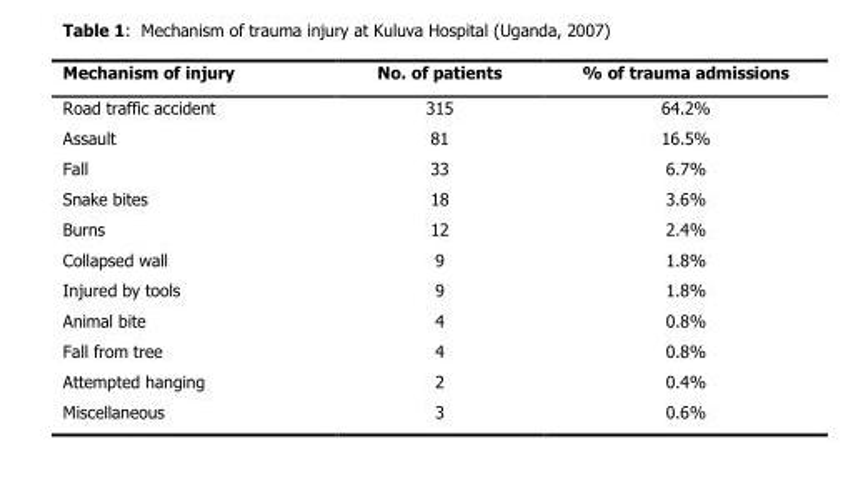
<table><thead><tr><td>Mechanism of injury</td><td>No. of patients</td><td>% of trauma admissions</td></tr></thead><tbody><tr><td>Road traffic accident</td><td>315</td><td>64.2%</td></tr><tr><td>Assault</td><td>81</td><td>16.5%</td></tr><tr><td>Fall</td><td>33</td><td>6.7%</td></tr><tr><td>Snake bites</td><td>18</td><td>3.6%</td></tr><tr><td>Burns</td><td>12</td><td>2.4%</td></tr><tr><td>Collapsed wall</td><td>9</td><td>1.8%</td></tr><tr><td>Injured by tools</td><td>9</td><td>1.8%</td></tr><tr><td>Animal bite</td><td>4</td><td>0.8%</td></tr><tr><td>Fall from tree</td><td>4</td><td>0.8%</td></tr><tr><td>Attempted hanging</td><td>2</td><td>0.4%</td></tr><tr><td>Miscellaneous</td><td>3</td><td>0.6%</td></tr></tbody></table>